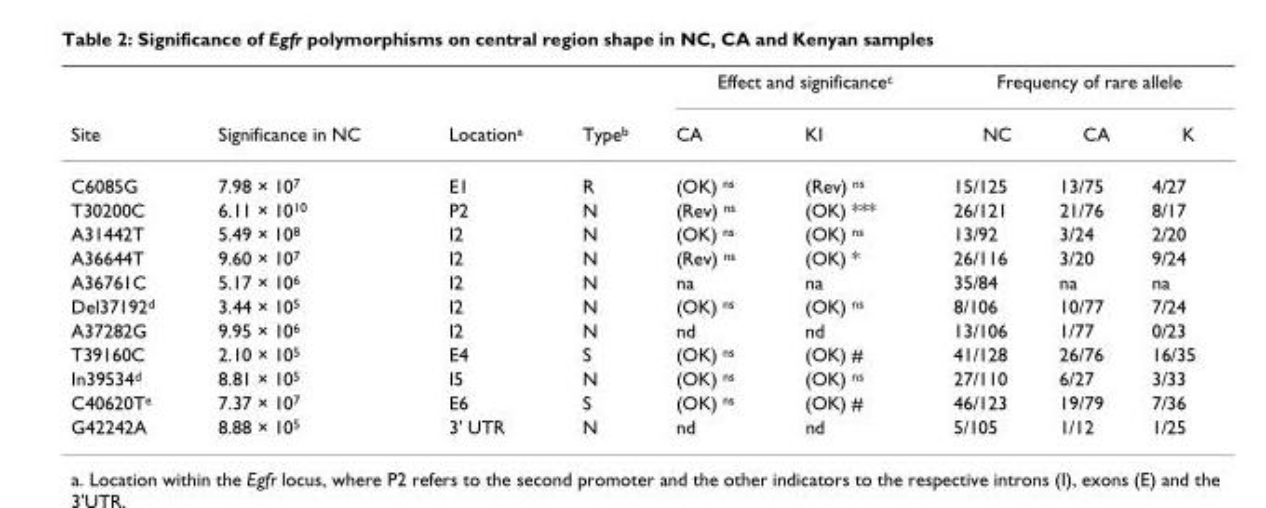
<table><thead><tr><td rowspan="2">Site</td><td rowspan="2">Significance in NC</td><td rowspan="2">Location<sup>a</sup></td><td rowspan="2">Type<sup>b</sup></td><td colspan="2">Effect and significance<sup>c</sup></td><td colspan="3">Frequency of rare allele</td></tr><tr><td>CA</td><td>KI</td><td>NC</td><td>CA</td><td>K</td></tr></thead><tbody><tr><td>C6085G</td><td>7.98 × 10<sup>7</sup></td><td>E1</td><td>R</td><td>(OK) <sup>ns</sup></td><td>(Rev) <sup>ns</sup></td><td>15/125</td><td>13/75</td><td>4/27</td></tr><tr><td>T30200C</td><td>6.11 × 10<sup>10</sup></td><td>P2</td><td>N</td><td>(Rev) <sup>ns</sup></td><td>(OK) ***</td><td>26/121</td><td>21/76</td><td>8/17</td></tr><tr><td>A31442T</td><td>5.49 × 10<sup>8</sup></td><td>I2</td><td>N</td><td>(OK) <sup>ns</sup></td><td>(OK) <sup>ns</sup></td><td>13/92</td><td>3/24</td><td>2/20</td></tr><tr><td>A36644T</td><td>9.60 × 10<sup>7</sup></td><td>I2</td><td>N</td><td>(Rev) <sup>ns</sup></td><td>(OK) *</td><td>26/116</td><td>3/20</td><td>9/24</td></tr><tr><td>A36761C</td><td>5.17 × 10<sup>6</sup></td><td>I2</td><td>N</td><td>na</td><td>na</td><td>35/84</td><td>na</td><td>na</td></tr><tr><td>Del37192<sup>d</sup></td><td>3.44 × 10<sup>5</sup></td><td>I2</td><td>N</td><td>(OK) <sup>ns</sup></td><td>(OK) <sup>ns</sup></td><td>8/106</td><td>10/77</td><td>7/24</td></tr><tr><td>A37282G</td><td>9.95 × 10<sup>6</sup></td><td>I2</td><td>N</td><td>nd</td><td>nd</td><td>13/106</td><td>1/77</td><td>0/23</td></tr><tr><td>T39160C</td><td>2.10 × 10<sup>5</sup></td><td>E4</td><td>S</td><td>(OK) <sup>ns</sup></td><td>(OK) #</td><td>41/128</td><td>26/76</td><td>16/35</td></tr><tr><td>In39534<sup>d</sup></td><td>8.81 × 10<sup>5</sup></td><td>I5</td><td>N</td><td>(OK) <sup>ns</sup></td><td>(OK) <sup>ns</sup></td><td>27/110</td><td>6/27</td><td>3/33</td></tr><tr><td>C40620T<sup>e</sup></td><td>7.37 × 10<sup>7</sup></td><td>E6</td><td>S</td><td>(OK) <sup>ns</sup></td><td>(OK) #</td><td>46/123</td><td>19/79</td><td>7/36</td></tr><tr><td>G42242A</td><td>8.88 × 10<sup>5</sup></td><td>3&#x27; UTR</td><td>N</td><td>nd</td><td>nd</td><td>5/105</td><td>1/12</td><td>1/25</td></tr></tbody></table>